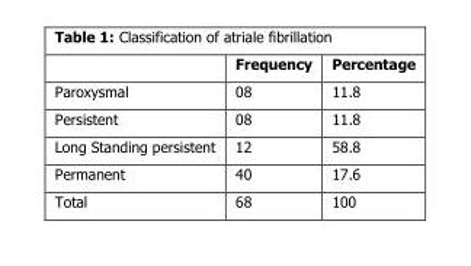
<table><thead><tr><td></td><td>Frequency</td><td>Percentage</td></tr></thead><tbody><tr><td>Paroxysmal</td><td>08</td><td>11.8</td></tr><tr><td>Persistent</td><td>08</td><td>11.8</td></tr><tr><td>Long Standing persistent</td><td>12</td><td>58.8</td></tr><tr><td>Permanent</td><td>40</td><td>17.6</td></tr><tr><td>Total</td><td>68</td><td>100</td></tr></tbody></table>